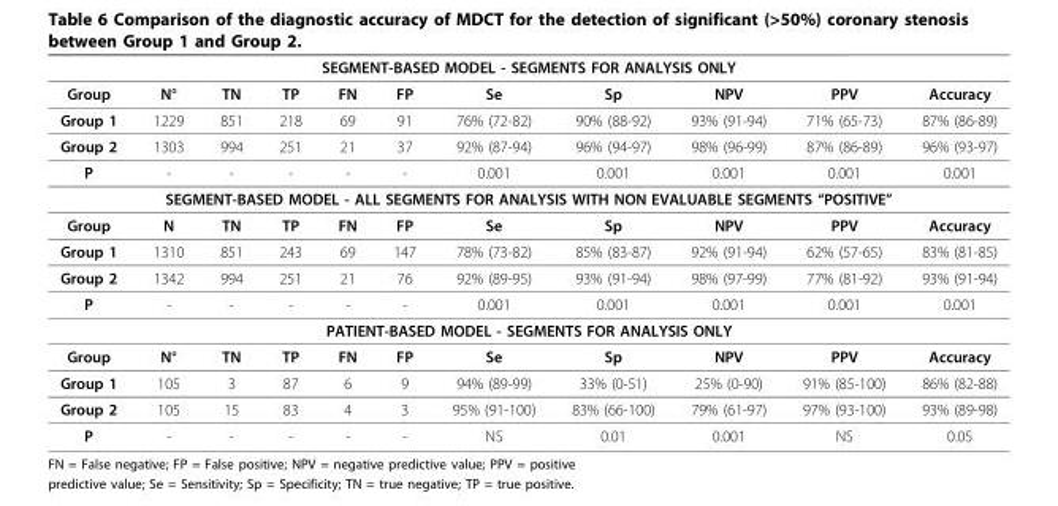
<table><thead><tr><td colspan="11">SEGMENT-BASED MODEL - SEGMENTS FOR ANALYSIS ONLY</td></tr><tr><td>Group</td><td>N°</td><td>TN</td><td>TP</td><td>FN</td><td>FP</td><td>Se</td><td>Sp</td><td>NPV</td><td>PPV</td><td>Accuracy</td></tr></thead><tbody><tr><td>Group 1</td><td>1229</td><td>851</td><td>218</td><td>69</td><td>91</td><td>76% (72-82)</td><td>90% (88-92)</td><td>93% (91-94)</td><td>71% (65-73)</td><td>87% (86-89)</td></tr><tr><td>Group 2</td><td>1303</td><td>994</td><td>251</td><td>21</td><td>37</td><td>92% (87-94)</td><td>96% (94-97)</td><td>98% (96-99)</td><td>87% (86-89)</td><td>96% (93-97)</td></tr><tr><td>P</td><td>-</td><td>-</td><td>-</td><td>-</td><td>-</td><td>0.001</td><td>0.001</td><td>0.001</td><td>0.001</td><td>0.001</td></tr><tr><td colspan="11">SEGMENT-BASED MODEL - ALL SEGMENTS FOR ANALYSIS WITH NON EVALUABLE SEGMENTS “POSITIVE”</td></tr><tr><td>Group</td><td>N</td><td>TN</td><td>TP</td><td>FN</td><td>FP</td><td>Se</td><td>Sp</td><td>NPV</td><td>PPV</td><td>Accuracy</td></tr><tr><td>Group 1</td><td>1310</td><td>851</td><td>243</td><td>69</td><td>147</td><td>78% (73-82)</td><td>85% (83-87)</td><td>92% (91-94)</td><td>62% (57-65)</td><td>83% (81-85)</td></tr><tr><td>Group 2</td><td>1342</td><td>994</td><td>251</td><td>21</td><td>76</td><td>92% (89-95)</td><td>93% (91-94)</td><td>98% (97-99)</td><td>77% (81-92)</td><td>93% (91-94)</td></tr><tr><td>P</td><td>-</td><td>-</td><td>-</td><td>-</td><td>-</td><td>0.001</td><td>0.001</td><td>0.001</td><td>0.001</td><td>0.001</td></tr><tr><td colspan="11">PATIENT-BASED MODEL - SEGMENTS FOR ANALYSIS ONLY</td></tr><tr><td>Group</td><td>N°</td><td>TN</td><td>TP</td><td>FN</td><td>FP</td><td>Se</td><td>Sp</td><td>NPV</td><td>PPV</td><td>Accuracy</td></tr><tr><td>Group 1</td><td>105</td><td>3</td><td>87</td><td>6</td><td>9</td><td>94% (89-99)</td><td>33% (0-51)</td><td>25% (0-90)</td><td>91% (85-100)</td><td>86% (82-88)</td></tr><tr><td>Group 2</td><td>105</td><td>15</td><td>83</td><td>4</td><td>3</td><td>95% (91-100)</td><td>83% (66-100)</td><td>79% (61-97)</td><td>97% (93-100)</td><td>93% (89-98)</td></tr><tr><td>P</td><td>-</td><td>-</td><td>-</td><td>-</td><td>-</td><td>NS</td><td>0.01</td><td>0.001</td><td>NS</td><td>0.05</td></tr></tbody></table>